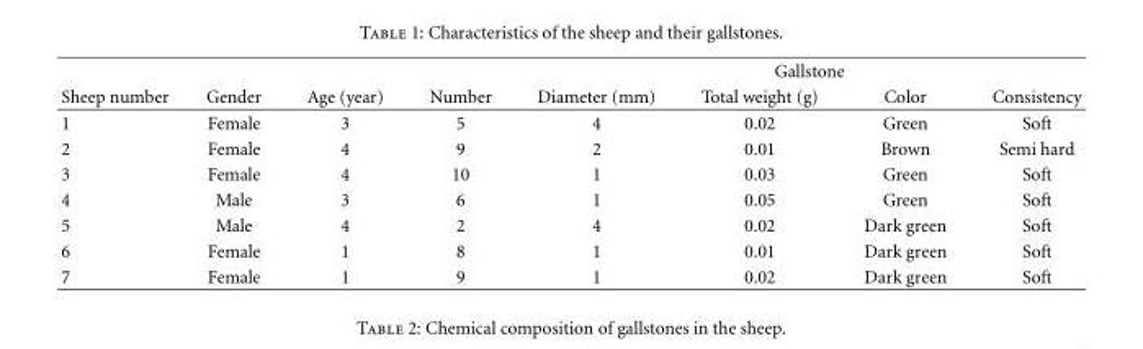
<table><thead><tr><td rowspan="2">Sheep number</td><td rowspan="2">Gender</td><td rowspan="2">Age (year)</td><td rowspan="2">Number</td><td colspan="4">Gallstone</td></tr><tr><td>Diameter (mm)</td><td>Total weight (g)</td><td>Color</td><td>Consistency</td></tr></thead><tbody><tr><td>1</td><td>Female</td><td>3</td><td>5</td><td>4</td><td>0.02</td><td>Green</td><td>Soft</td></tr><tr><td>2</td><td>Female</td><td>4</td><td>9</td><td>2</td><td>0.01</td><td>Brown</td><td>Semi hard</td></tr><tr><td>3</td><td>Female</td><td>4</td><td>10</td><td>1</td><td>0.03</td><td>Green</td><td>Soft</td></tr><tr><td>4</td><td>Male</td><td>3</td><td>6</td><td>1</td><td>0.05</td><td>Green</td><td>Soft</td></tr><tr><td>5</td><td>Male</td><td>4</td><td>2</td><td>4</td><td>0.02</td><td>Dark green</td><td>Soft</td></tr><tr><td>6</td><td>Female</td><td>1</td><td>8</td><td>1</td><td>0.01</td><td>Dark green</td><td>Soft</td></tr><tr><td>7</td><td>Female</td><td>1</td><td>9</td><td>1</td><td>0.02</td><td>Dark green</td><td>Soft</td></tr></tbody></table>